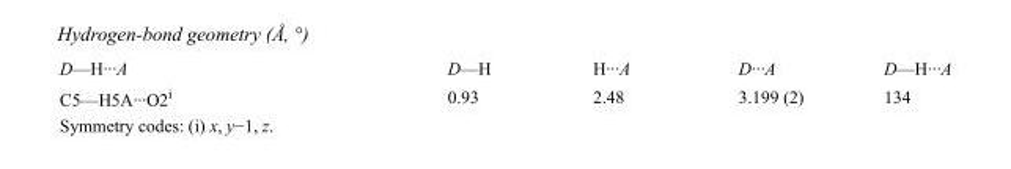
<table><tbody><tr><td>D—H···A</td><td>D—H</td><td>H···A</td><td>D···A</td><td>D—H···A</td></tr><tr><td>C5—H5A···O2<sup>i</sup></td><td>0.93</td><td>2.48</td><td>3.199 (2)</td><td>134</td></tr></tbody></table>